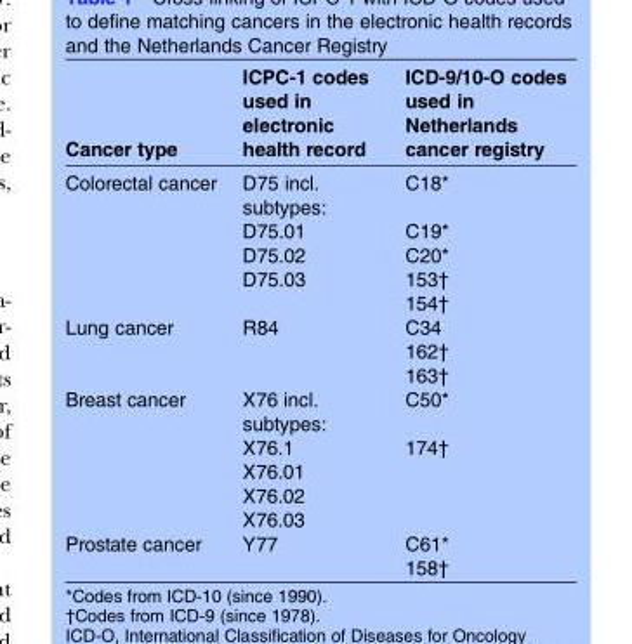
<table><thead><tr><td>Cancer type</td><td>ICPC-1 codes used in electronic health record</td><td>ICD-9/10-O codes used in Netherlands cancer registry</td></tr></thead><tbody><tr><td rowspan="5">Colorectal cancer</td><td>D75 incl. subtypes:</td><td>C18*</td></tr><tr><td>D75.01</td><td>C19*</td></tr><tr><td>D75.02</td><td>C20*</td></tr><tr><td>D75.03</td><td>153†</td></tr><tr><td></td><td>154†</td></tr><tr><td rowspan="3">Lung cancer</td><td>R84</td><td>C34</td></tr><tr><td></td><td>162†</td></tr><tr><td></td><td>163†</td></tr><tr><td rowspan="5">Breast cancer</td><td>X76 incl. subtypes:</td><td>C50*</td></tr><tr><td>X76.1</td><td>174†</td></tr><tr><td>X76.01</td><td></td></tr><tr><td>X76.02</td><td></td></tr><tr><td>X76.03</td><td></td></tr><tr><td rowspan="2">Prostate cancer</td><td>Y77</td><td>C61*</td></tr><tr><td></td><td>158†</td></tr></tbody></table>